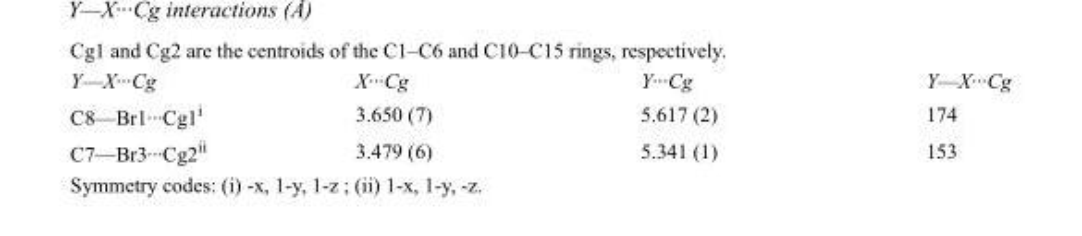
<table><tbody><tr><td>Y—X···Cg</td><td>X···Cg</td><td>Y···Cg</td><td>Y—X···Cg</td></tr><tr><td>C8—Br1···Cg1<sup>i</sup></td><td>3.650 (7)</td><td>5.617 (2)</td><td>174</td></tr><tr><td>C7—Br3···Cg2<sup>ii</sup></td><td>3.479 (6)</td><td>5.341 (1)</td><td>153</td></tr></tbody></table>